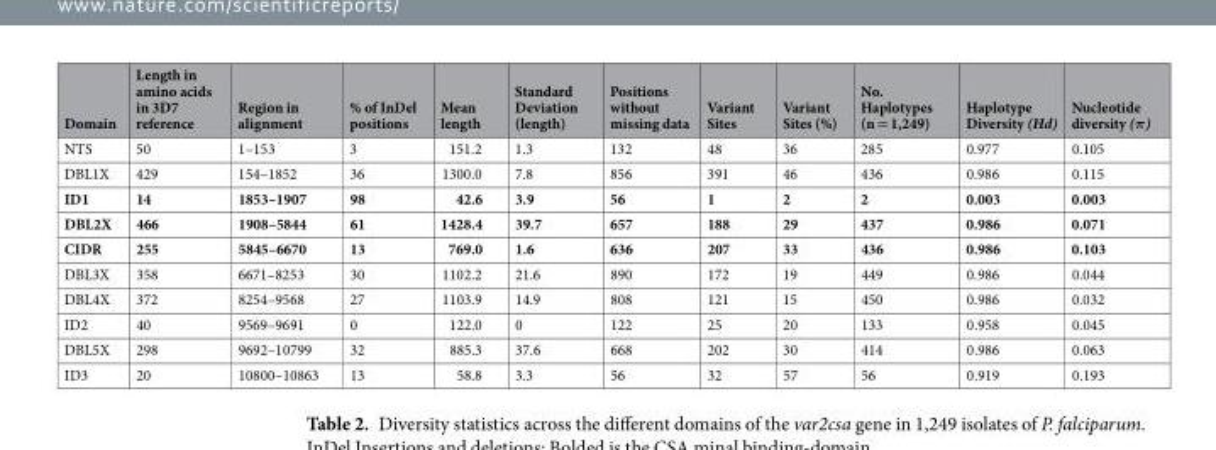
<table><thead><tr><td>Domain</td><td>Length in amino acids in 3D7 reference</td><td>Region in alignment</td><td>% of InDel positions</td><td>Mean length</td><td>Standard Deviation (length)</td><td>Positions without missing data</td><td>Variant Sites</td><td>Variant Sites (%)</td><td>No. Haplotypes (n = 1,249)</td><td>Haplotype Diversity (Hd)</td><td>Nucleotide diversity (π)</td></tr></thead><tbody><tr><td>NTS</td><td>50</td><td>1–153</td><td>3</td><td>151.2</td><td>1.3</td><td>132</td><td>48</td><td>36</td><td>285</td><td>0.977</td><td>0.105</td></tr><tr><td>DBL1X</td><td>429</td><td>154–1852</td><td>36</td><td>1300.0</td><td>7.8</td><td>856</td><td>391</td><td>46</td><td>436</td><td>0.986</td><td>0.115</td></tr><tr><td>ID1</td><td>14</td><td>1853–1907</td><td>98</td><td>42.6</td><td>3.9</td><td>56</td><td>1</td><td>2</td><td>2</td><td>0.003</td><td>0.003</td></tr><tr><td>DBL2X</td><td>466</td><td>1908–5844</td><td>61</td><td>1428.4</td><td>39.7</td><td>657</td><td>188</td><td>29</td><td>437</td><td>0.986</td><td>0.071</td></tr><tr><td>CIDR</td><td>255</td><td>5845–6670</td><td>13</td><td>769.0</td><td>1.6</td><td>636</td><td>207</td><td>33</td><td>436</td><td>0.986</td><td>0.103</td></tr><tr><td>DBL3X</td><td>358</td><td>6671–8253</td><td>30</td><td>1102.2</td><td>21.6</td><td>890</td><td>172</td><td>19</td><td>449</td><td>0.986</td><td>0.044</td></tr><tr><td>DBL4X</td><td>372</td><td>8254–9568</td><td>27</td><td>1103.9</td><td>14.9</td><td>808</td><td>121</td><td>15</td><td>450</td><td>0.986</td><td>0.032</td></tr><tr><td>ID2</td><td>40</td><td>9569–9691</td><td>0</td><td>122.0</td><td>0</td><td>122</td><td>25</td><td>20</td><td>133</td><td>0.958</td><td>0.045</td></tr><tr><td>DBL5X</td><td>298</td><td>9692–10799</td><td>32</td><td>885.3</td><td>37.6</td><td>668</td><td>202</td><td>30</td><td>414</td><td>0.986</td><td>0.063</td></tr><tr><td>ID3</td><td>20</td><td>10800–10863</td><td>13</td><td>58.8</td><td>3.3</td><td>56</td><td>32</td><td>57</td><td>56</td><td>0.919</td><td>0.193</td></tr></tbody></table>